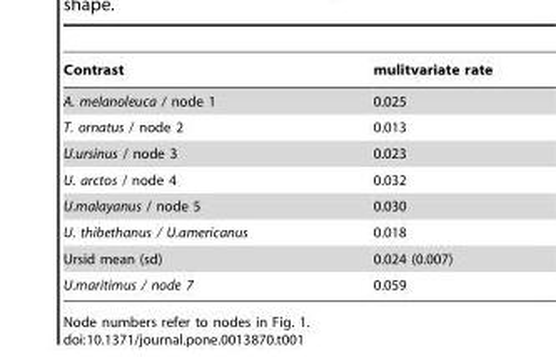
<table><thead><tr><td>Contrast</td><td>mulitvariate rate</td></tr></thead><tbody><tr><td>A. melanoleuca / node 1</td><td>0.025</td></tr><tr><td>T. ornatus / node 2</td><td>0.013</td></tr><tr><td>U.ursinus / node 3</td><td>0.023</td></tr><tr><td>U. arctos / node 4</td><td>0.032</td></tr><tr><td>U.malayanus / node 5</td><td>0.030</td></tr><tr><td>U. thibethanus / U.americanus</td><td>0.018</td></tr><tr><td>Ursid mean (sd)</td><td>0.024 (0.007)</td></tr><tr><td>U.maritimus / node 7</td><td>0.059</td></tr></tbody></table>